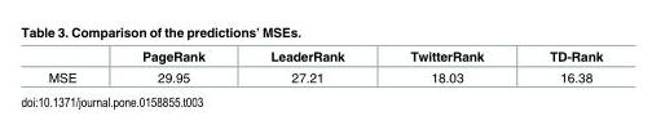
<table><thead><tr><td></td><td>PageRank</td><td>LeaderRank</td><td>TwitterRank</td><td>TD-Rank</td></tr></thead><tbody><tr><td>MSE</td><td>29.95</td><td>27.21</td><td>18.03</td><td>16.38</td></tr></tbody></table>